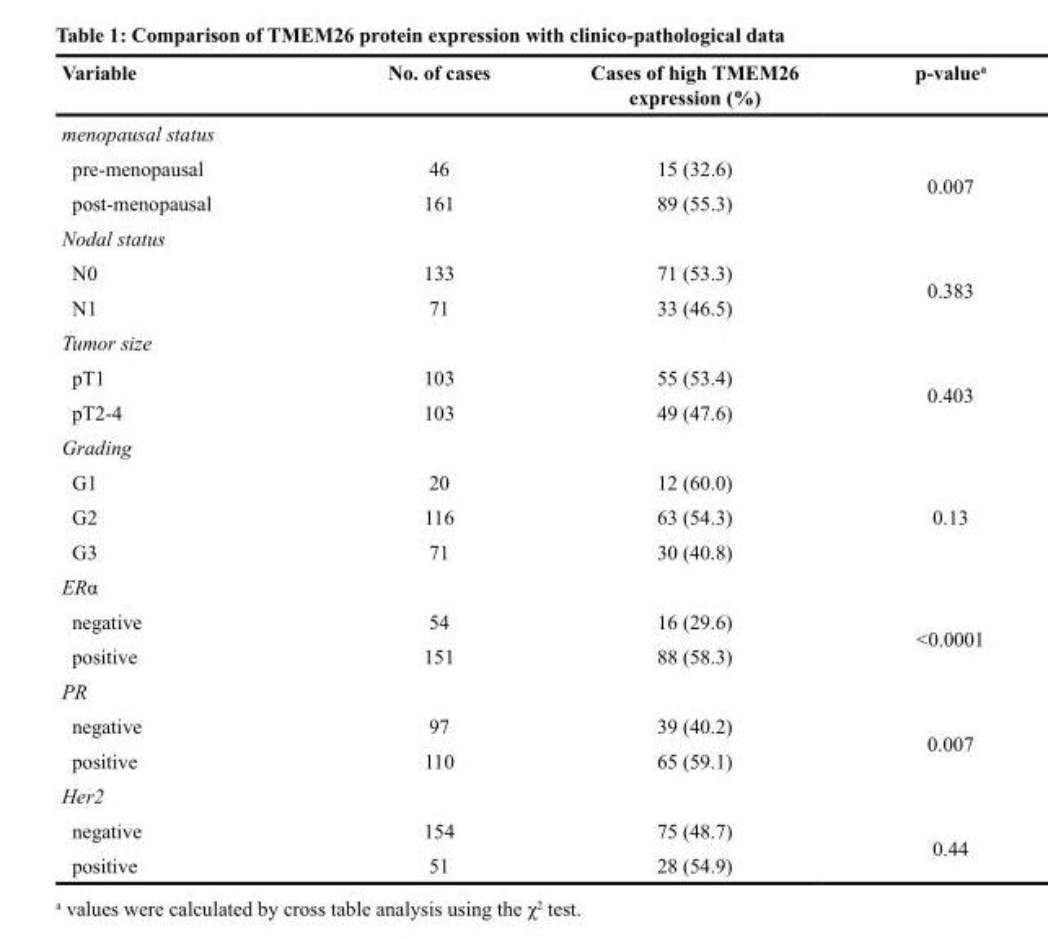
<table><thead><tr><td>Variable</td><td>No. of cases</td><td>Cases of high TMEM26 expression (%)</td><td>p-value<sup>a</sup></td></tr></thead><tbody><tr><td colspan="4">menopausal status</td></tr><tr><td>pre-menopausal</td><td>46</td><td>15 (32.6)</td><td rowspan="2">0.007</td></tr><tr><td>post-menopausal</td><td>161</td><td>89 (55.3)</td></tr><tr><td colspan="4">Nodal status</td></tr><tr><td>N0</td><td>133</td><td>71 (53.3)</td><td rowspan="2">0.383</td></tr><tr><td>N1</td><td>71</td><td>33 (46.5)</td></tr><tr><td colspan="4">Tumor size</td></tr><tr><td>pT1</td><td>103</td><td>55 (53.4)</td><td rowspan="2">0.403</td></tr><tr><td>pT2-4</td><td>103</td><td>49 (47.6)</td></tr><tr><td colspan="4">Grading</td></tr><tr><td>G1</td><td>20</td><td>12 (60.0)</td><td rowspan="3">0.13</td></tr><tr><td>G2</td><td>116</td><td>63 (54.3)</td></tr><tr><td>G3</td><td>71</td><td>30 (40.8)</td></tr><tr><td colspan="4">ERα</td></tr><tr><td>negative</td><td>54</td><td>16 (29.6)</td><td rowspan="2">&lt;0.0001</td></tr><tr><td>positive</td><td>151</td><td>88 (58.3)</td></tr><tr><td colspan="4">PR</td></tr><tr><td>negative</td><td>97</td><td>39 (40.2)</td><td rowspan="2">0.007</td></tr><tr><td>positive</td><td>110</td><td>65 (59.1)</td></tr><tr><td colspan="4">Her2</td></tr><tr><td>negative</td><td>154</td><td>75 (48.7)</td><td rowspan="2">0.44</td></tr><tr><td>positive</td><td>51</td><td>28 (54.9)</td></tr></tbody></table>